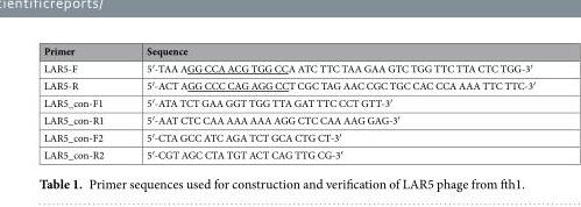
<table><thead><tr><td>Primer</td><td>Sequence</td></tr></thead><tbody><tr><td>LAR5-F</td><td>5′-TAA AGG CCA ACG TGG CCA ATC TTC TAA GAA GTC TGG TTC TTA CTC TGG-3′</td></tr><tr><td>LAR5-R</td><td>5′-ACT AGG CCC CAG AGG CCT CGC TAG AAC CGC TGC CAC CCA AAA TTC TTC-3′</td></tr><tr><td>LAR5_con-F1</td><td>5′-ATA TCT GAA GGT TGG TTA GAT TTC CCT GTT-3′</td></tr><tr><td>LAR5_con-R1</td><td>5′-AAT CTC CAA AAA AAA AGG CTC CAA AAG GAG-3′</td></tr><tr><td>LAR5_con-F2</td><td>5′-CTA GCC ATC AGA TCT GCA CTG CT-3′</td></tr><tr><td>LAR5_con-R2</td><td>5′-CGT AGC CTA TGT ACT CAG TTG CG-3′</td></tr></tbody></table>